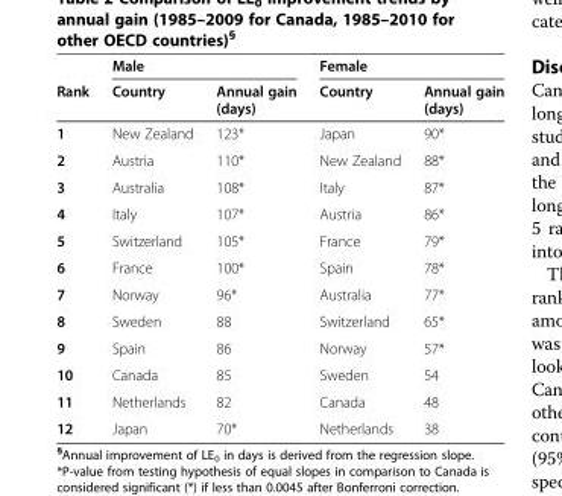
<table><thead><tr><td rowspan="2">Rank</td><td colspan="2">Male</td><td colspan="2">Female</td></tr><tr><td>Country</td><td>Annual gain (days)</td><td>Country</td><td>Annual gain (days)</td></tr></thead><tbody><tr><td>1</td><td>New Zealand</td><td>123*</td><td>Japan</td><td>90*</td></tr><tr><td>2</td><td>Austria</td><td>110*</td><td>New Zealand</td><td>88*</td></tr><tr><td>3</td><td>Australia</td><td>108*</td><td>Italy</td><td>87*</td></tr><tr><td>4</td><td>Italy</td><td>107*</td><td>Austria</td><td>86*</td></tr><tr><td>5</td><td>Switzerland</td><td>105*</td><td>France</td><td>79*</td></tr><tr><td>6</td><td>France</td><td>100*</td><td>Spain</td><td>78*</td></tr><tr><td>7</td><td>Norway</td><td>96*</td><td>Australia</td><td>77*</td></tr><tr><td>8</td><td>Sweden</td><td>88</td><td>Switzerland</td><td>65*</td></tr><tr><td>9</td><td>Spain</td><td>86</td><td>Norway</td><td>57*</td></tr><tr><td>10</td><td>Canada</td><td>85</td><td>Sweden</td><td>54</td></tr><tr><td>11</td><td>Netherlands</td><td>82</td><td>Canada</td><td>48</td></tr><tr><td>12</td><td>Japan</td><td>70*</td><td>Netherlands</td><td>38</td></tr></tbody></table>